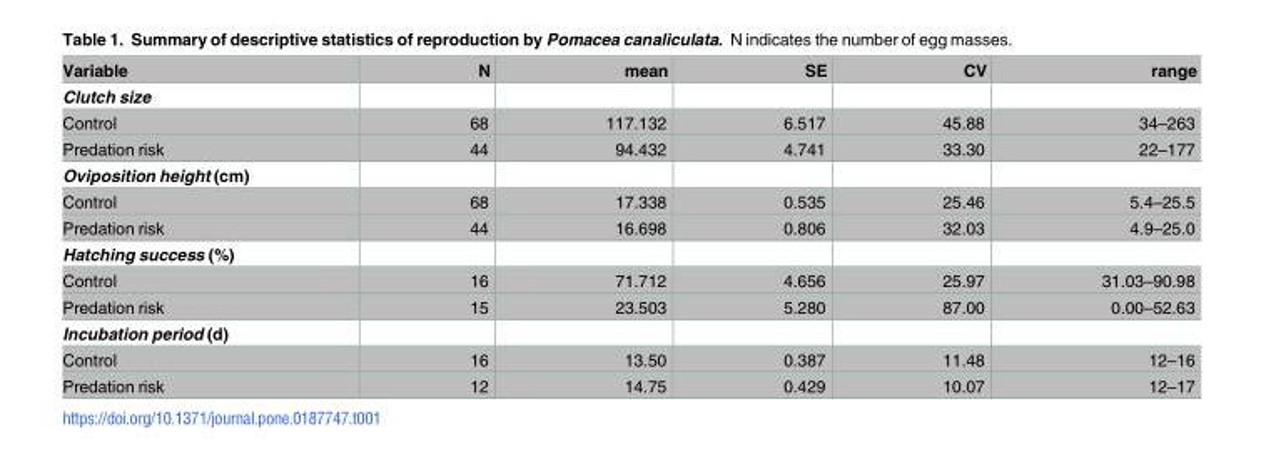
<table><thead><tr><td>Variable</td><td>N</td><td>mean</td><td>SE</td><td>CV</td><td>range</td></tr></thead><tbody><tr><td colspan="6">Clutch size</td></tr><tr><td>Control</td><td>68</td><td>117.132</td><td>6.517</td><td>45.88</td><td>34–263</td></tr><tr><td>Predation risk</td><td>44</td><td>94.432</td><td>4.741</td><td>33.30</td><td>22–177</td></tr><tr><td colspan="6">Oviposition height (cm)</td></tr><tr><td>Control</td><td>68</td><td>17.338</td><td>0.535</td><td>25.46</td><td>5.4–25.5</td></tr><tr><td>Predation risk</td><td>44</td><td>16.698</td><td>0.806</td><td>32.03</td><td>4.9–25.0</td></tr><tr><td colspan="6">Hatching success (%)</td></tr><tr><td>Control</td><td>16</td><td>71.712</td><td>4.656</td><td>25.97</td><td>31.03–90.98</td></tr><tr><td>Predation risk</td><td>15</td><td>23.503</td><td>5.280</td><td>87.00</td><td>0.00–52.63</td></tr><tr><td colspan="6">Incubation period (d)</td></tr><tr><td>Control</td><td>16</td><td>13.50</td><td>0.387</td><td>11.48</td><td>12–16</td></tr><tr><td>Predation risk</td><td>12</td><td>14.75</td><td>0.429</td><td>10.07</td><td>12–17</td></tr></tbody></table>